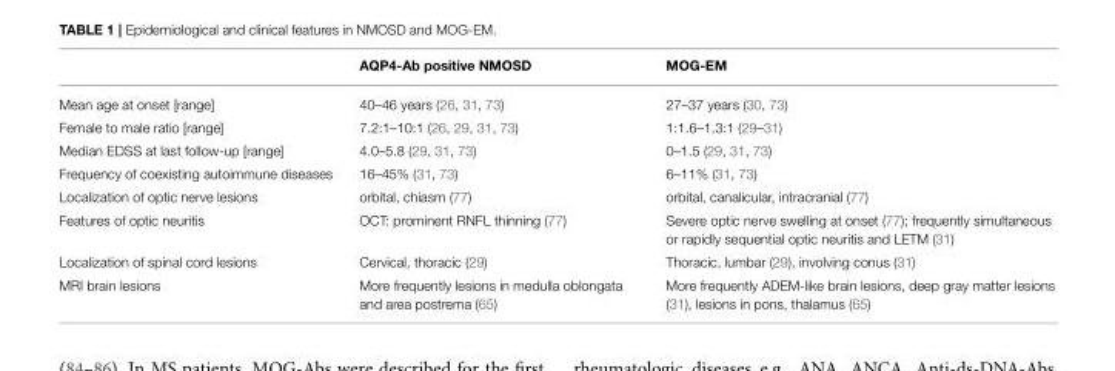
<table><thead><tr><td></td><td>AQP4-Ab positive NMOSD</td><td>MOG-EM</td></tr></thead><tbody><tr><td>Mean age at onset [range]</td><td>40–46 years (26, 31, 73)</td><td>27–37 years (30, 73)</td></tr><tr><td>Female to male ratio [range]</td><td>7.2:1–10:1 (26, 29, 31, 73)</td><td>1:1.6–1.3:1 (29–31)</td></tr><tr><td>Median EDSS at last follow-up [range]</td><td>4.0–5.8 (29, 31, 73)</td><td>0–1.5 (29, 31, 73)</td></tr><tr><td>Frequency of coexisting autoimmune diseases</td><td>16–45% (31, 73)</td><td>6–11% (31, 73)</td></tr><tr><td>Localization of optic nerve lesions</td><td>orbital, chiasm (77)</td><td>orbital, canalicular, intracranial (77)</td></tr><tr><td>Features of optic neuritis</td><td>OCT: prominent RNFL thinning (77)</td><td>Severe optic nerve swelling at onset (77); frequently simultaneous or rapidly sequential optic neuritis and LETM (31)</td></tr><tr><td>Localization of spinal cord lesions</td><td>Cervical, thoracic (29)</td><td>Thoracic, lumbar (29), involving conus (31)</td></tr><tr><td>MRI brain lesions</td><td>More frequently lesions in medulla oblongata and area postrema (65)</td><td>More frequently ADEM-like brain lesions, deep gray matter lesions (31), lesions in pons, thalamus (65)</td></tr></tbody></table>